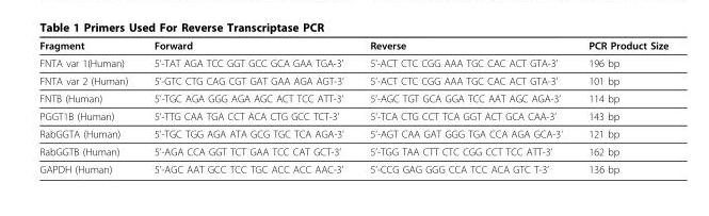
<table><thead><tr><td>Fragment</td><td>Forward</td><td>Reverse</td><td>PCR Product Size</td></tr></thead><tbody><tr><td>FNTA var 1(Human)</td><td>5’-TAT AGA TCC GGT GCC GCA GAA TGA-3’</td><td>5’-ACT CTC CGG AAA TGC CAC ACT GTA-3’</td><td>196 bp</td></tr><tr><td>FNTA var 2 (Human)</td><td>5’-GTC CTG CAG CGT GAT GAA AGA AGT-3’</td><td>5’-ACT CTC CGG AAA TGC CAC ACT GTA-3’</td><td>101 bp</td></tr><tr><td>FNTB (Human)</td><td>5’-TGC AGA GGG AGA AGC ACT TCC ATT-3’</td><td>5’-AGC TGT GCA GGA TCC AAT AGC AGA-3’</td><td>114 bp</td></tr><tr><td>PGGT1B (Human)</td><td>5’-TTG CAA TGA CCT ACA CTG GCC TCT-3’</td><td>5’-TCA CTG CCT TCA GGT ACT GCA CAA-3’</td><td>143 bp</td></tr><tr><td>RabGGTA (Human)</td><td>5’-TGC TGG AGA ATA GCG TGC TCA AGA-3’</td><td>5’-AGT CAA GAT GGG TGA CCA AGA GCA-3’</td><td>121 bp</td></tr><tr><td>RabGGTB (Human)</td><td>5’-AGA CCA GGT TCT GAA TCC CAT GCT-3’</td><td>5’-TGG TAA CTT CTC CGG CCT TCC ATT-3’</td><td>162 bp</td></tr><tr><td>GAPDH (Human)</td><td>5’-AGC AAT GCC TCC TGC ACC ACC AAC-3’</td><td>5’-CCG GAG GGG CCA TCC ACA GTC T-3’</td><td>136 bp</td></tr></tbody></table>